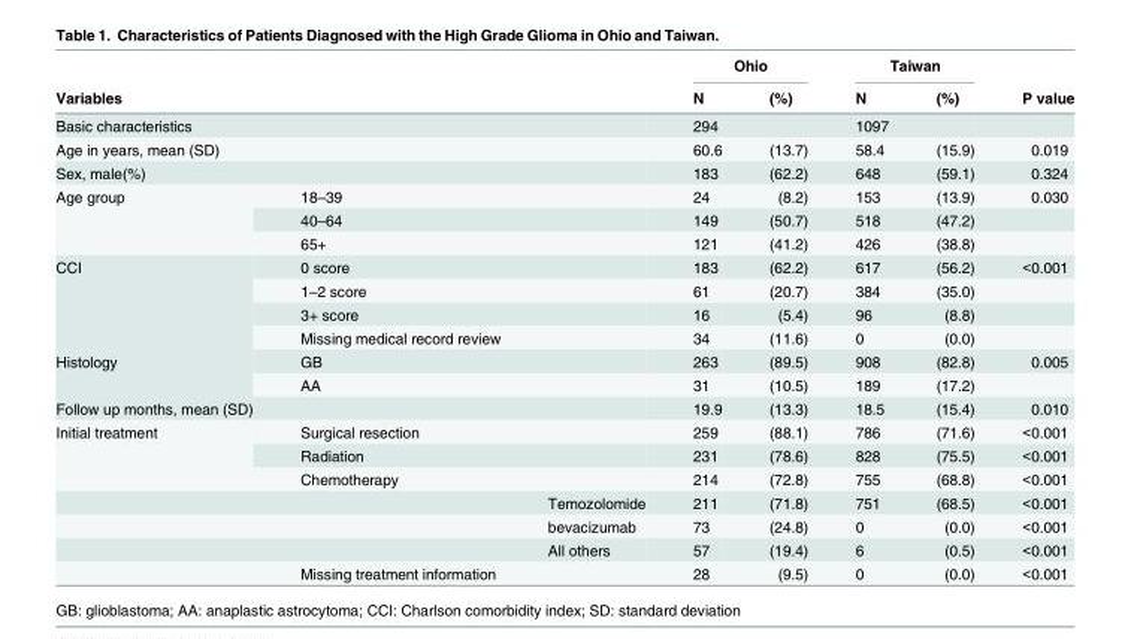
<table><thead><tr><td rowspan="2">Variables</td><td rowspan="2"></td><td rowspan="2"></td><td colspan="2">Ohio</td><td colspan="2">Taiwan</td><td rowspan="2">P value</td></tr><tr><td>N</td><td>(%)</td><td>N</td><td>(%)</td></tr></thead><tbody><tr><td>Basic characteristics</td><td></td><td></td><td>294</td><td></td><td>1097</td><td></td><td></td></tr><tr><td>Age in years, mean (SD)</td><td></td><td></td><td>60.6</td><td>(13.7)</td><td>58.4</td><td>(15.9)</td><td>0.019</td></tr><tr><td>Sex, male(%)</td><td></td><td></td><td>183</td><td>(62.2)</td><td>648</td><td>(59.1)</td><td>0.324</td></tr><tr><td rowspan="3">Age group</td><td>18–39</td><td></td><td>24</td><td>(8.2)</td><td>153</td><td>(13.9)</td><td>0.030</td></tr><tr><td>40–64</td><td></td><td>149</td><td>(50.7)</td><td>518</td><td>(47.2)</td><td></td></tr><tr><td>65+</td><td></td><td>121</td><td>(41.2)</td><td>426</td><td>(38.8)</td><td></td></tr><tr><td rowspan="4">CCI</td><td>0 score</td><td></td><td>183</td><td>(62.2)</td><td>617</td><td>(56.2)</td><td>&lt;0.001</td></tr><tr><td>1–2 score</td><td></td><td>61</td><td>(20.7)</td><td>384</td><td>(35.0)</td><td></td></tr><tr><td>3+ score</td><td></td><td>16</td><td>(5.4)</td><td>96</td><td>(8.8)</td><td></td></tr><tr><td>Missing medical record review</td><td></td><td>34</td><td>(11.6)</td><td>0</td><td>(0.0)</td><td></td></tr><tr><td rowspan="2">Histology</td><td>GB</td><td></td><td>263</td><td>(89.5)</td><td>908</td><td>(82.8)</td><td>0.005</td></tr><tr><td>AA</td><td></td><td>31</td><td>(10.5)</td><td>189</td><td>(17.2)</td><td></td></tr><tr><td>Follow up months, mean (SD)</td><td></td><td></td><td>19.9</td><td>(13.3)</td><td>18.5</td><td>(15.4)</td><td>0.010</td></tr><tr><td rowspan="7">Initial treatment</td><td>Surgical resection</td><td></td><td>259</td><td>(88.1)</td><td>786</td><td>(71.6)</td><td>&lt;0.001</td></tr><tr><td>Radiation</td><td></td><td>231</td><td>(78.6)</td><td>828</td><td>(75.5)</td><td>&lt;0.001</td></tr><tr><td>Chemotherapy</td><td></td><td>214</td><td>(72.8)</td><td>755</td><td>(68.8)</td><td>&lt;0.001</td></tr><tr><td></td><td>Temozolomide</td><td>211</td><td>(71.8)</td><td>751</td><td>(68.5)</td><td>&lt;0.001</td></tr><tr><td></td><td>bevacizumab</td><td>73</td><td>(24.8)</td><td>0</td><td>(0.0)</td><td>&lt;0.001</td></tr><tr><td></td><td>All others</td><td>57</td><td>(19.4)</td><td>6</td><td>(0.5)</td><td>&lt;0.001</td></tr><tr><td>Missing treatment information</td><td></td><td>28</td><td>(9.5)</td><td>0</td><td>(0.0)</td><td>&lt;0.001</td></tr></tbody></table>